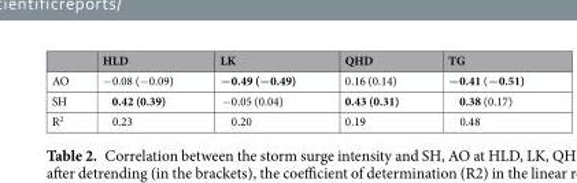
<table><thead><tr><td></td><td>HLD</td><td>LK</td><td>QHD</td><td>TG</td></tr></thead><tbody><tr><td>AO</td><td>−0.08 (−0.09)</td><td>−0.49 (−0.49)</td><td>0.16 (0.14)</td><td>−0.41 (−0.51)</td></tr><tr><td>SH</td><td>0.42 (0.39)</td><td>−0.05 (0.04)</td><td>0.43 (0.31)</td><td>0.38 (0.17)</td></tr><tr><td>R<sup>2</sup></td><td>0.23</td><td>0.20</td><td>0.19</td><td>0.48</td></tr></tbody></table>